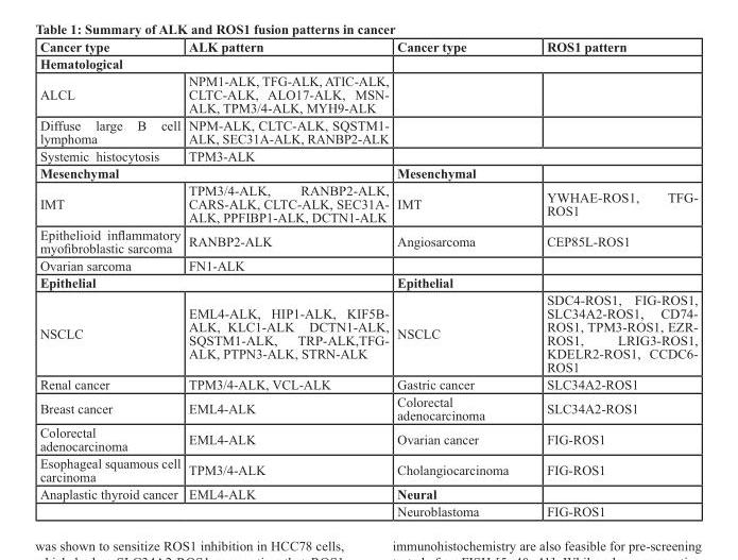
<table><thead><tr><td>Cancer type</td><td>ALK pattern</td><td>Cancer type</td><td>ROS1 pattern</td></tr></thead><tbody><tr><td colspan="4">Hematological</td></tr><tr><td>ALCL</td><td>NPM1-ALK, TFG-ALK, ATIC-ALK, CLTC-ALK, ALO17-ALK, MSN- ALK, TPM3/4-ALK, MYH9-ALK</td><td></td><td></td></tr><tr><td>Diffuse large B cell lymphoma</td><td>NPM-ALK, CLTC-ALK, SQSTM1- ALK, SEC31A-ALK, RANBP2-ALK</td><td></td><td></td></tr><tr><td>Systemic histocytosis</td><td>TPM3-ALK</td><td colspan="2"></td></tr><tr><td colspan="2">Mesenchymal</td><td>Mesenchymal</td><td></td></tr><tr><td>IMT</td><td>TPM3/4-ALK, RANBP2-ALK, CARS-ALK, CLTC-ALK, SEC31A- ALK, PPFIBP1-ALK, DCTN1-ALK</td><td>IMT</td><td>YWHAE-ROS1, TFG- ROS1</td></tr><tr><td>Epithelioid inflammatory myofibroblastic sarcoma</td><td>RANBP2-ALK</td><td>Angiosarcoma</td><td>CEP85L-ROS1</td></tr><tr><td>Ovarian sarcoma</td><td>FN1-ALK</td><td></td><td></td></tr><tr><td colspan="2">Epithelial</td><td>Epithelial</td><td></td></tr><tr><td>NSCLC</td><td>EML4-ALK, HIP1-ALK, KIF5B- ALK, KLC1-ALK DCTN1-ALK, SQSTM1-ALK, TRP-ALK,TFG- ALK, PTPN3-ALK, STRN-ALK</td><td>NSCLC</td><td>SDC4-ROS1, FIG-ROS1, SLC34A2-ROS1, CD74- ROS1, TPM3-ROS1, EZR- ROS1, LRIG3-ROS1, KDELR2-ROS1, CCDC6- ROS1</td></tr><tr><td>Renal cancer</td><td>TPM3/4-ALK, VCL-ALK</td><td>Gastric cancer</td><td>SLC34A2-ROS1</td></tr><tr><td>Breast cancer</td><td>EML4-ALK</td><td>Colorectal adenocarcinoma</td><td>SLC34A2-ROS1</td></tr><tr><td>Colorectal adenocarcinoma</td><td>EML4-ALK</td><td>Ovarian cancer</td><td>FIG-ROS1</td></tr><tr><td>Esophageal squamous cell carcinoma</td><td>TPM3/4-ALK</td><td>Cholangiocarcinoma</td><td>FIG-ROS1</td></tr><tr><td>Anaplastic thyroid cancer</td><td>EML4-ALK</td><td>Neural</td><td></td></tr><tr><td colspan="2"></td><td>Neuroblastoma</td><td>FIG-ROS1</td></tr></tbody></table>